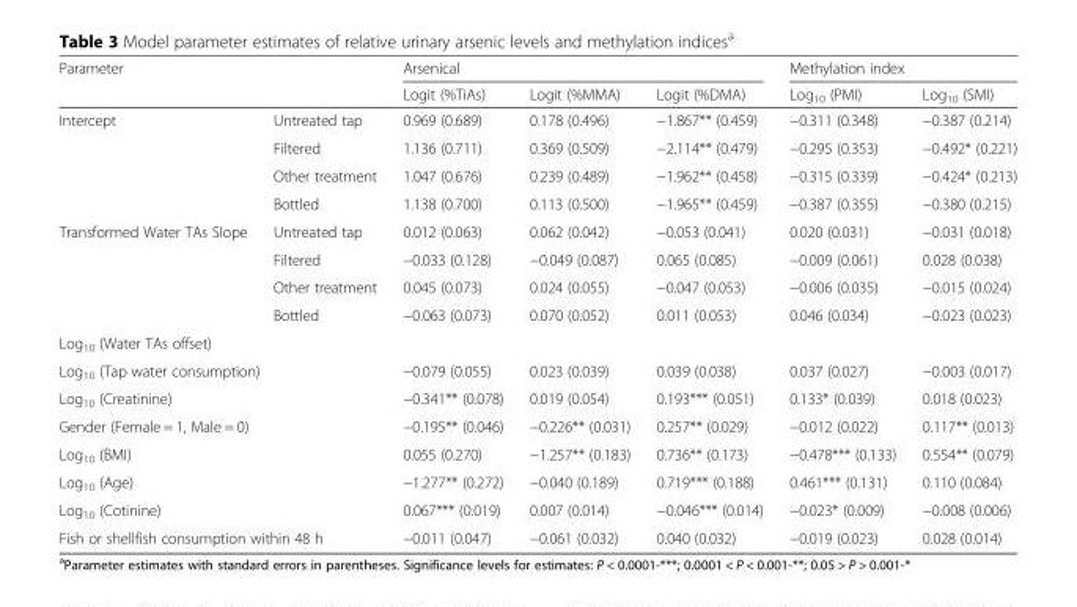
<table><thead><tr><td rowspan="2" colspan="2">Parameter</td><td colspan="3">Arsenical</td><td colspan="2">Methylation index</td></tr><tr><td rowspan="2">Logit (%TiAs) 0.969 (0.689)</td><td rowspan="2">Logit (%MMA) 0.178 (0.496)</td><td rowspan="2">Logit (%DMA) −1.867** (0.459)</td><td rowspan="2">Log<sub>10</sub> (PMI) −0.311 (0.348)</td><td rowspan="2">Log<sub>10</sub> (SMI) −0.387 (0.214)</td></tr><tr><td>Intercept</td><td>Untreated tap</td></tr></thead><tbody><tr><td></td><td>Filtered</td><td>1.136 (0.711)</td><td>0.369 (0.509)</td><td>−2.114** (0.479)</td><td>−0.295 (0.353)</td><td>−0.492* (0.221)</td></tr><tr><td></td><td>Other treatment</td><td>1.047 (0.676)</td><td>0.239 (0.489)</td><td>−1.962** (0.458)</td><td>−0.315 (0.339)</td><td>−0.424* (0.213)</td></tr><tr><td></td><td>Bottled</td><td>1.138 (0.700)</td><td>0.113 (0.500)</td><td>−1.965** (0.459)</td><td>−0.387 (0.355)</td><td>−0.380 (0.215)</td></tr><tr><td rowspan="4">Transformed Water TAs Slope</td><td>Untreated tap</td><td>0.012 (0.063)</td><td>0.062 (0.042)</td><td>−0.053 (0.041)</td><td>0.020 (0.031)</td><td>−0.031 (0.018)</td></tr><tr><td>Filtered</td><td>−0.033 (0.128)</td><td>−0.049 (0.087)</td><td>0.065 (0.085)</td><td>−0.009 (0.061)</td><td>0.028 (0.038)</td></tr><tr><td>Other treatment</td><td>0.045 (0.073)</td><td>0.024 (0.055)</td><td>−0.047 (0.053)</td><td>−0.006 (0.035)</td><td>−0.015 (0.024)</td></tr><tr><td>Bottled</td><td>−0.063 (0.073)</td><td>0.070 (0.052)</td><td>0.011 (0.053)</td><td>0.046 (0.034)</td><td>−0.023 (0.023)</td></tr><tr><td colspan="7">Log<sub>10</sub> (Water TAs offset)</td></tr><tr><td colspan="2">Log<sub>10</sub> (Tap water consumption)</td><td>−0.079 (0.055)</td><td>0.023 (0.039)</td><td>0.039 (0.038)</td><td>0.037 (0.027)</td><td>−0.003 (0.017)</td></tr><tr><td colspan="2">Log<sub>10</sub> (Creatinine)</td><td>−0.341** (0.078)</td><td>0.019 (0.054)</td><td>0.193*** (0.051)</td><td>0.133* (0.039)</td><td>0.018 (0.023)</td></tr><tr><td colspan="2">Gender (Female = 1, Male = 0)</td><td>−0.195** (0.046)</td><td>−0.226** (0.031)</td><td>0.257** (0.029)</td><td>−0.012 (0.022)</td><td>0.117** (0.013)</td></tr><tr><td colspan="2">Log<sub>10</sub> (BMI)</td><td>0.055 (0.270)</td><td>−1.257** (0.183)</td><td>0.736** (0.173)</td><td>−0.478*** (0.133)</td><td>0.554** (0.079)</td></tr><tr><td colspan="2">Log<sub>10</sub> (Age)</td><td>−1.277** (0.272)</td><td>−0.040 (0.189)</td><td>0.719*** (0.188)</td><td>0.461*** (0.131)</td><td>0.110 (0.084)</td></tr><tr><td colspan="2">Log<sub>10</sub> (Cotinine)</td><td>0.067*** (0.019)</td><td>0.007 (0.014)</td><td>−0.046*** (0.014)</td><td>−0.023* (0.009)</td><td>−0.008 (0.006)</td></tr><tr><td colspan="2">Fish or shellfish consumption within 48 h</td><td>−0.011 (0.047)</td><td>−0.061 (0.032)</td><td>0.040 (0.032)</td><td>−0.019 (0.023)</td><td>0.028 (0.014)</td></tr></tbody></table>